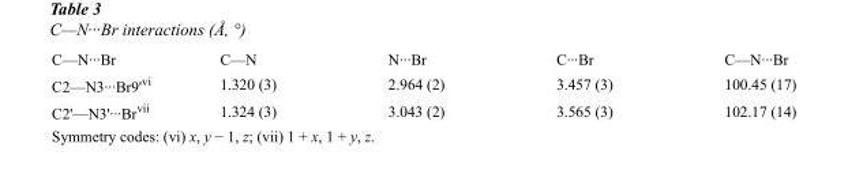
<table><tbody><tr><td>C—N···Br</td><td>C—N</td><td>N···Br</td><td>C···Br</td><td>C—N···Br</td></tr><tr><td>C2—N3···Br9&#x27;<sup>vi</sup></td><td>1.320 (3)</td><td>2.964 (2)</td><td>3.457 (3)</td><td>100.45 (17)</td></tr><tr><td>C2&#x27;—N3&#x27;···Br<sup>vii</sup></td><td>1.324 (3)</td><td>3.043 (2)</td><td>3.565 (3)</td><td>102.17 (14)</td></tr></tbody></table>